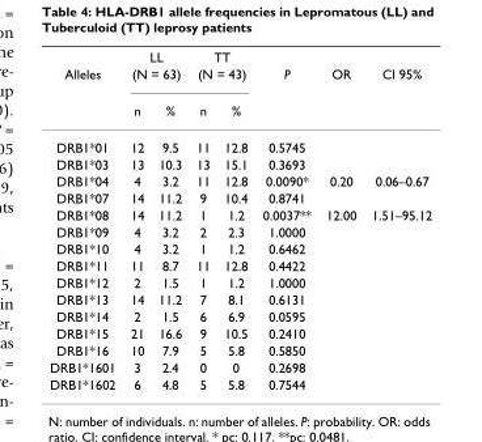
<table><thead><tr><td rowspan="3">Alleles</td><td rowspan="2" colspan="2">LL (N = 63)</td><td rowspan="2" colspan="2">TT (N = 43)</td><td rowspan="3">P</td><td rowspan="3">OR</td><td rowspan="3">CI 95%</td></tr><tr></tr><tr><td>n</td><td>%</td><td>n</td><td>%</td></tr></thead><tbody><tr><td>DRB1*01</td><td>12</td><td>9.5</td><td>11</td><td>12.8</td><td>0.5745</td><td></td><td></td></tr><tr><td>DRB1*03</td><td>13</td><td>10.3</td><td>13</td><td>15.1</td><td>0.3693</td><td></td><td></td></tr><tr><td>DRB1*04</td><td>4</td><td>3.2</td><td>11</td><td>12.8</td><td>0.0090*</td><td>0.20</td><td>0.06–0.67</td></tr><tr><td>DRB1*07</td><td>14</td><td>11.2</td><td>9</td><td>10.4</td><td>0.8741</td><td></td><td></td></tr><tr><td>DRB1*08</td><td>14</td><td>11.2</td><td>1</td><td>1.2</td><td>0.0037**</td><td>12.00</td><td>1.51–95.12</td></tr><tr><td>DRB1*09</td><td>4</td><td>3.2</td><td>2</td><td>2.3</td><td>1.0000</td><td></td><td></td></tr><tr><td>DRB1*10</td><td>4</td><td>3.2</td><td>1</td><td>1.2</td><td>0.6462</td><td></td><td></td></tr><tr><td>DRB1*11</td><td>11</td><td>8.7</td><td>11</td><td>12.8</td><td>0.4422</td><td></td><td></td></tr><tr><td>DRB1*12</td><td>2</td><td>1.5</td><td>1</td><td>1.2</td><td>1.0000</td><td></td><td></td></tr><tr><td>DRB1*13</td><td>14</td><td>11.2</td><td>7</td><td>8.1</td><td>0.6131</td><td></td><td></td></tr><tr><td>DRB1*14</td><td>2</td><td>1.5</td><td>6</td><td>6.9</td><td>0.0595</td><td></td><td></td></tr><tr><td>DRB1*15</td><td>21</td><td>16.6</td><td>9</td><td>10.5</td><td>0.2410</td><td></td><td></td></tr><tr><td>DRB1*16</td><td>10</td><td>7.9</td><td>5</td><td>5.8</td><td>0.5850</td><td></td><td></td></tr><tr><td>DRB1*1601</td><td>3</td><td>2.4</td><td>0</td><td>0</td><td>0.2698</td><td></td><td></td></tr><tr><td>DRB1*1602</td><td>6</td><td>4.8</td><td>5</td><td>5.8</td><td>0.7544</td><td></td><td></td></tr></tbody></table>